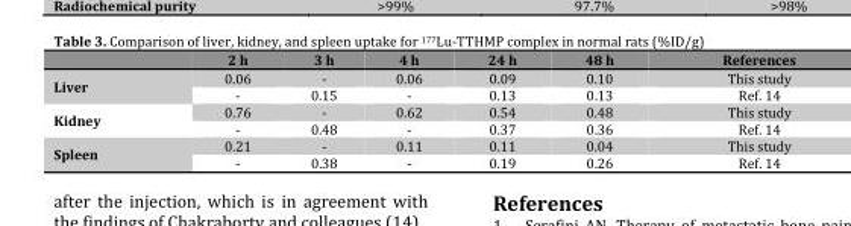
<table><thead><tr><td></td><td>2 h</td><td>3 h</td><td>4 h</td><td>24 h</td><td>48 h</td><td>References</td></tr></thead><tbody><tr><td rowspan="2">Liver</td><td>0.06</td><td>-</td><td>0.06</td><td>0.09</td><td>0.10</td><td>This study</td></tr><tr><td>-</td><td>0.15</td><td>-</td><td>0.13</td><td>0.13</td><td>Ref. 14</td></tr><tr><td rowspan="2">Kidney</td><td>0.76</td><td>-</td><td>0.62</td><td>0.54</td><td>0.48</td><td>This study</td></tr><tr><td>-</td><td>0.48</td><td>-</td><td>0.37</td><td>0.36</td><td>Ref. 14</td></tr><tr><td rowspan="2">Spleen</td><td>0.21</td><td>-</td><td>0.11</td><td>0.11</td><td>0.04</td><td>This study</td></tr><tr><td>-</td><td>0.38</td><td>-</td><td>0.19</td><td>0.26</td><td>Ref. 14</td></tr></tbody></table>